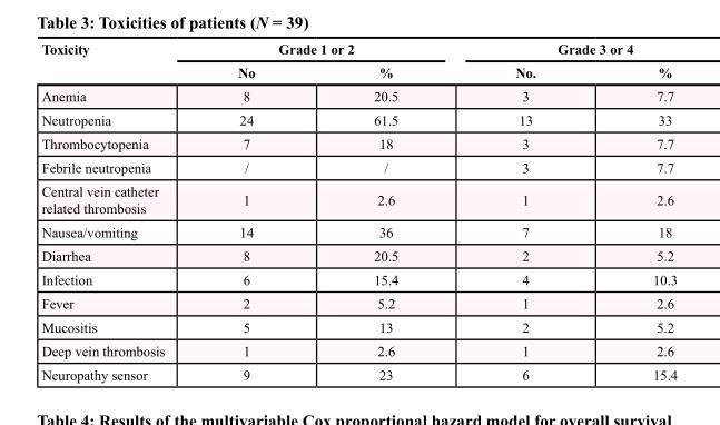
<table><thead><tr><td rowspan="2">Toxicity</td><td colspan="2">Grade 1 or 2</td><td colspan="2">Grade 3 or 4</td></tr><tr><td>No</td><td>%</td><td>No.</td><td>%</td></tr></thead><tbody><tr><td>Anemia</td><td>8</td><td>20.5</td><td>3</td><td>7.7</td></tr><tr><td>Neutropenia</td><td>24</td><td>61.5</td><td>13</td><td>33</td></tr><tr><td>Thrombocytopenia</td><td>7</td><td>18</td><td>3</td><td>7.7</td></tr><tr><td>Febrile neutropenia</td><td>/</td><td>/</td><td>3</td><td>7.7</td></tr><tr><td>Central vein catheter related thrombosis</td><td>1</td><td>2.6</td><td>1</td><td>2.6</td></tr><tr><td>Nausea/vomiting</td><td>14</td><td>36</td><td>7</td><td>18</td></tr><tr><td>Diarrhea</td><td>8</td><td>20.5</td><td>2</td><td>5.2</td></tr><tr><td>Infection</td><td>6</td><td>15.4</td><td>4</td><td>10.3</td></tr><tr><td>Fever</td><td>2</td><td>5.2</td><td>1</td><td>2.6</td></tr><tr><td>Mucositis</td><td>5</td><td>13</td><td>2</td><td>5.2</td></tr><tr><td>Deep vein thrombosis</td><td>1</td><td>2.6</td><td>1</td><td>2.6</td></tr><tr><td>Neuropathy sensor</td><td>9</td><td>23</td><td>6</td><td>15.4</td></tr></tbody></table>